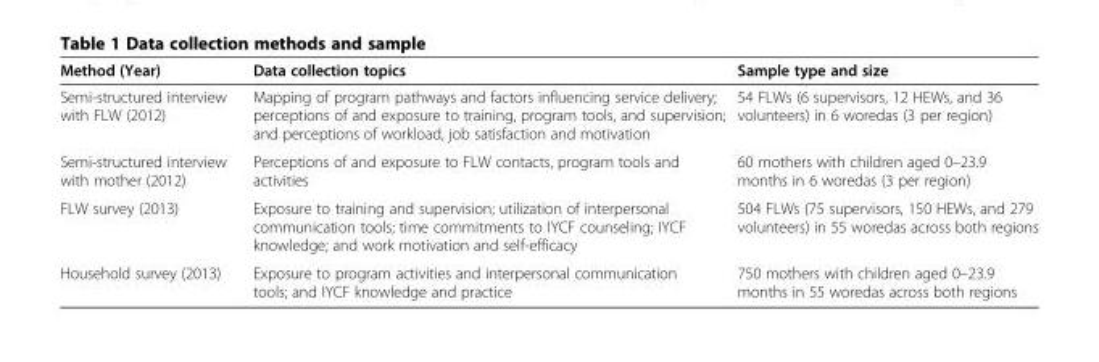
<table><thead><tr><td>Method (Year)</td><td>Data collection topics</td><td>Sample type and size</td></tr></thead><tbody><tr><td>Semi-structured interview with FLW (2012)</td><td>Mapping of program pathways and factors influencing service delivery; perceptions of and exposure to training, program tools, and supervision; and perceptions of workload, job satisfaction and motivation</td><td>54 FLWs (6 supervisors, 12 HEWs, and 36 volunteers) in 6 woredas (3 per region)</td></tr><tr><td>Semi-structured interview with mother (2012)</td><td>Perceptions of and exposure to FLW contacts, program tools and activities</td><td>60 mothers with children aged 0–23.9 months in 6 woredas (3 per region)</td></tr><tr><td>FLW survey (2013)</td><td>Exposure to training and supervision; utilization of interpersonal communication tools; time commitments to IYCF counseling; IYCF knowledge; and work motivation and self-efficacy</td><td>504 FLWs (75 supervisors, 150 HEWs, and 279 volunteers) in 55 woredas across both regions</td></tr><tr><td>Household survey (2013)</td><td>Exposure to program activities and interpersonal communication tools; and IYCF knowledge and practice</td><td>750 mothers with children aged 0–23.9 months in 55 woredas across both regions</td></tr></tbody></table>